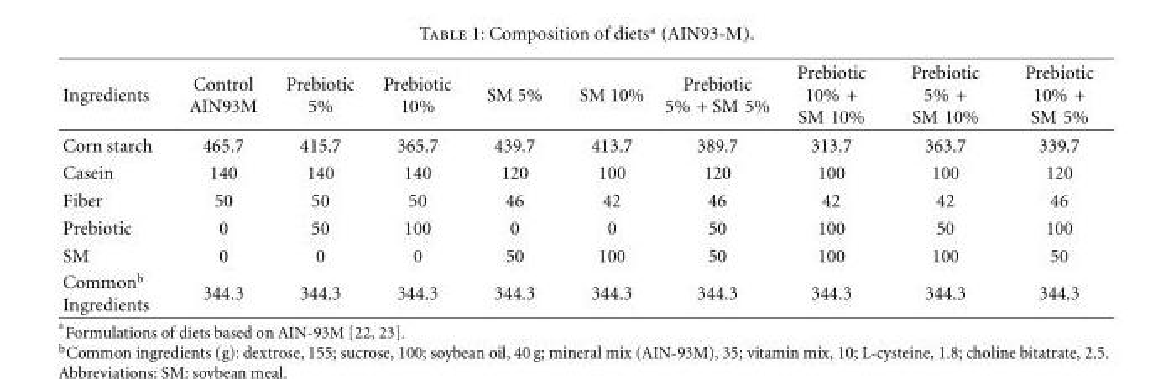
<table><thead><tr><td>Ingredients</td><td>Control AIN93M</td><td>Prebiotic 5%</td><td>Prebiotic 10%</td><td>SM 5%</td><td>SM 10%</td><td>Prebiotic 5% + SM 5%</td><td>Prebiotic 10% + SM 10%</td><td>Prebiotic 5% + SM 10%</td><td>Prebiotic 10% + SM 5%</td></tr></thead><tbody><tr><td>Corn starch</td><td>465.7</td><td>415.7</td><td>365.7</td><td>439.7</td><td>413.7</td><td>389.7</td><td>313.7</td><td>363.7</td><td>339.7</td></tr><tr><td>Casein</td><td>140</td><td>140</td><td>140</td><td>120</td><td>100</td><td>120</td><td>100</td><td>100</td><td>120</td></tr><tr><td>Fiber</td><td>50</td><td>50</td><td>50</td><td>46</td><td>42</td><td>46</td><td>42</td><td>42</td><td>46</td></tr><tr><td>Prebiotic</td><td>0</td><td>50</td><td>100</td><td>0</td><td>0</td><td>50</td><td>100</td><td>50</td><td>100</td></tr><tr><td>SM</td><td>0</td><td>0</td><td>0</td><td>50</td><td>100</td><td>50</td><td>100</td><td>100</td><td>50</td></tr><tr><td>Common<sup>b</sup> Ingredients</td><td>344.3</td><td>344.3</td><td>344.3</td><td>344.3</td><td>344.3</td><td>344.3</td><td>344.3</td><td>344.3</td><td>344.3</td></tr></tbody></table>